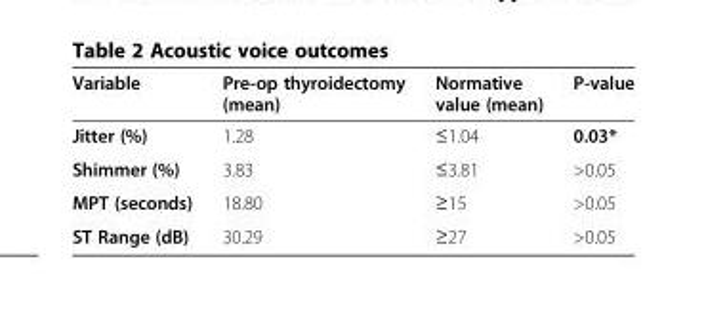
<table><thead><tr><td>Variable</td><td>Pre-op thyroidectomy (mean)</td><td>Normative value (mean)</td><td>P-value</td></tr></thead><tbody><tr><td>Jitter (%)</td><td>1.28</td><td>≤1.04</td><td>0.03*</td></tr><tr><td>Shimmer (%)</td><td>3.83</td><td>≤3.81</td><td>&gt;0.05</td></tr><tr><td>MPT (seconds)</td><td>18.80</td><td>≥15</td><td>&gt;0.05</td></tr><tr><td>ST Range (dB)</td><td>30.29</td><td>≥27</td><td>&gt;0.05</td></tr></tbody></table>